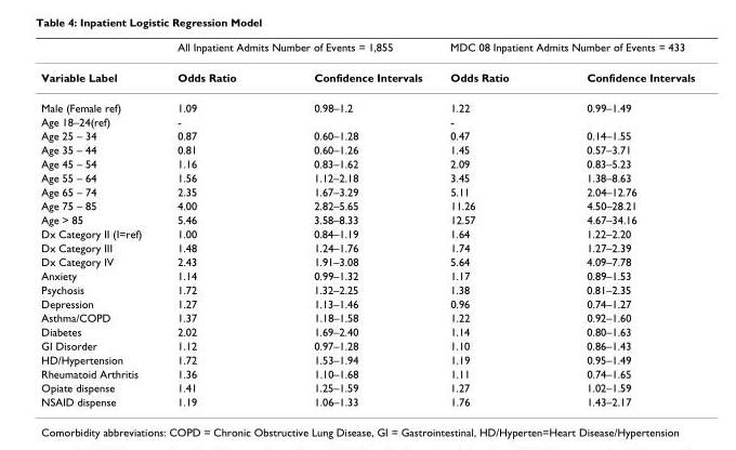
<table><thead><tr><td rowspan="2">Variable Label</td><td colspan="2">All Inpatient Admits Number of Events = 1,855</td><td colspan="2">MDC 08 Inpatient Admits Number of Events = 433</td></tr><tr><td>Odds Ratio</td><td>Confidence Intervals</td><td>Odds Ratio</td><td>Confidence Intervals</td></tr></thead><tbody><tr><td>Male (Female ref)</td><td>1.09</td><td>0.98–1.2</td><td>1.22</td><td>0.99–1.49</td></tr><tr><td>Age 18–24(ref)</td><td>-</td><td></td><td>-</td><td></td></tr><tr><td>Age 25 – 34</td><td>0.87</td><td>0.60–1.28</td><td>0.47</td><td>0.14–1.55</td></tr><tr><td>Age 35 – 44</td><td>0.81</td><td>0.60–1.26</td><td>1.45</td><td>0.57–3.71</td></tr><tr><td>Age 45 – 54</td><td>1.16</td><td>0.83–1.62</td><td>2.09</td><td>0.83–5.23</td></tr><tr><td>Age 55 – 64</td><td>1.56</td><td>1.12–2.18</td><td>3.45</td><td>1.38–8.63</td></tr><tr><td>Age 65 – 74</td><td>2.35</td><td>1.67–3.29</td><td>5.11</td><td>2.04–12.76</td></tr><tr><td>Age 75 – 85</td><td>4.00</td><td>2.82–5.65</td><td>11.26</td><td>4.50–28.21</td></tr><tr><td>Age &gt; 85</td><td>5.46</td><td>3.58–8.33</td><td>12.57</td><td>4.67–34.16</td></tr><tr><td>Dx Category II (I=ref)</td><td>1.00</td><td>0.84–1.19</td><td>1.64</td><td>1.22–2.20</td></tr><tr><td>Dx Category III</td><td>1.48</td><td>1.24–1.76</td><td>1.74</td><td>1.27–2.39</td></tr><tr><td>Dx Category IV</td><td>2.43</td><td>1.91–3.08</td><td>5.64</td><td>4.09–7.78</td></tr><tr><td>Anxiety</td><td>1.14</td><td>0.99–1.32</td><td>1.17</td><td>0.89–1.53</td></tr><tr><td>Psychosis</td><td>1.72</td><td>1.32–2.25</td><td>1.38</td><td>0.81–2.35</td></tr><tr><td>Depression</td><td>1.27</td><td>1.13–1.46</td><td>0.96</td><td>0.74–1.27</td></tr><tr><td>Asthma/COPD</td><td>1.37</td><td>1.18–1.58</td><td>1.22</td><td>0.92–1.60</td></tr><tr><td>Diabetes</td><td>2.02</td><td>1.69–2.40</td><td>1.14</td><td>0.80–1.63</td></tr><tr><td>GI Disorder</td><td>1.12</td><td>0.97–1.28</td><td>1.10</td><td>0.86–1.43</td></tr><tr><td>HD/Hypertension</td><td>1.72</td><td>1.53–1.94</td><td>1.19</td><td>0.95–1.49</td></tr><tr><td>Rheumatoid Arthritis</td><td>1.36</td><td>1.10–1.68</td><td>1.11</td><td>0.74–1.65</td></tr><tr><td>Opiate dispense</td><td>1.41</td><td>1.25–1.59</td><td>1.27</td><td>1.02–1.59</td></tr><tr><td>NSAID dispense</td><td>1.19</td><td>1.06–1.33</td><td>1.76</td><td>1.43–2.17</td></tr></tbody></table>